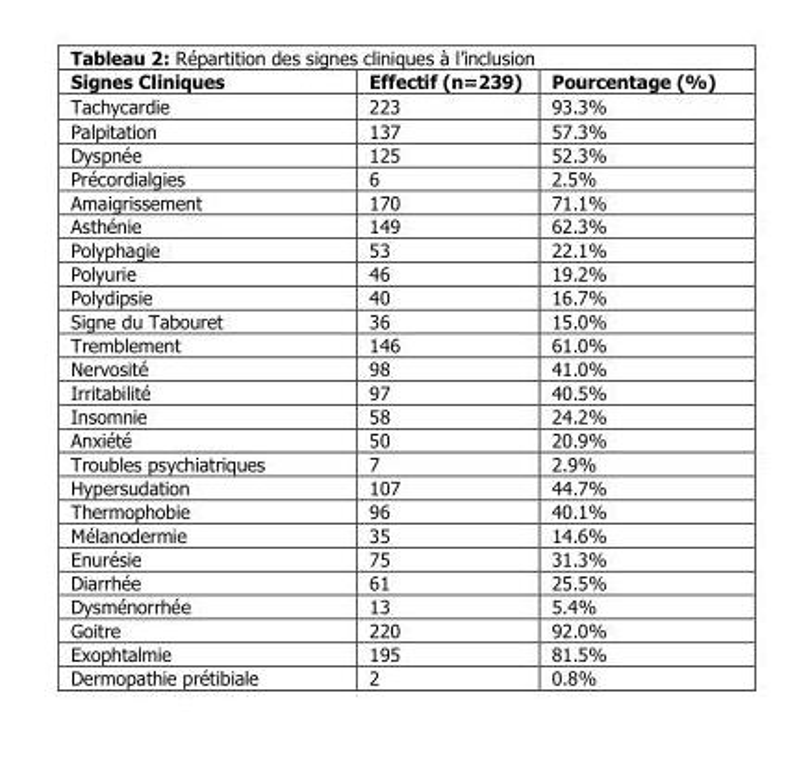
<table><thead><tr><td>Signes Cliniques</td><td>Effectif (n=239)</td><td>Pourcentage (%)</td></tr></thead><tbody><tr><td>Tachycardie</td><td>223</td><td>93.3%</td></tr><tr><td>Palpitation</td><td>137</td><td>57.3%</td></tr><tr><td>Dyspnée</td><td>125</td><td>52.3%</td></tr><tr><td>Précordialgies</td><td>6</td><td>2.5%</td></tr><tr><td>Amaigrissement</td><td>170</td><td>71.1%</td></tr><tr><td>Asthénie</td><td>149</td><td>62.3%</td></tr><tr><td>Polyphagie</td><td>53</td><td>22.1%</td></tr><tr><td>Polyurie</td><td>46</td><td>19.2%</td></tr><tr><td>Polydipsie</td><td>40</td><td>16.7%</td></tr><tr><td>Signe du Tabouret</td><td>36</td><td>15.0%</td></tr><tr><td>Tremblement</td><td>146</td><td>61.0%</td></tr><tr><td>Nervosité</td><td>98</td><td>41.0%</td></tr><tr><td>Irritabilité</td><td>97</td><td>40.5%</td></tr><tr><td>Insomnie</td><td>58</td><td>24.2%</td></tr><tr><td>Anxiété</td><td>50</td><td>20.9%</td></tr><tr><td>Troubles psychiatriques</td><td>7</td><td>2.9%</td></tr><tr><td>Hypersudation</td><td>107</td><td>44.7%</td></tr><tr><td>Thermophobie</td><td>96</td><td>40.1%</td></tr><tr><td>Mélanodermie</td><td>35</td><td>14.6%</td></tr><tr><td>Enurésie</td><td>75</td><td>31.3%</td></tr><tr><td>Diarrhée</td><td>61</td><td>25.5%</td></tr><tr><td>Dysménorrhée</td><td>13</td><td>5.4%</td></tr><tr><td>Goitre</td><td>220</td><td>92.0%</td></tr><tr><td>Exophtalmie</td><td>195</td><td>81.5%</td></tr><tr><td>Dermopathie prétibiale</td><td>2</td><td>0.8%</td></tr></tbody></table>